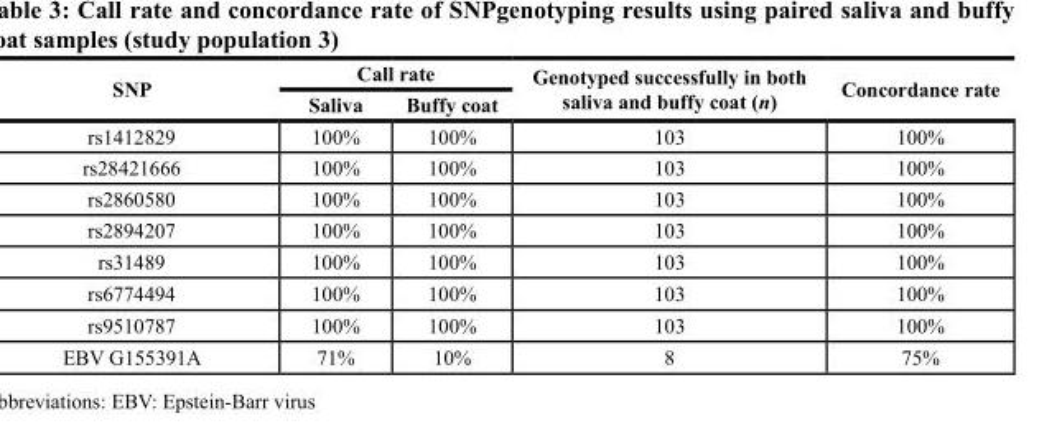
<table><thead><tr><td rowspan="2">SNP</td><td colspan="2">Call rate</td><td rowspan="2">Genotyped successfully in both saliva and buffy coat (n)</td><td rowspan="2">Concordance rate</td></tr><tr><td>Saliva</td><td>Buffy coat</td></tr></thead><tbody><tr><td>rs1412829</td><td>100%</td><td>100%</td><td>103</td><td>100%</td></tr><tr><td>rs28421666</td><td>100%</td><td>100%</td><td>103</td><td>100%</td></tr><tr><td>rs2860580</td><td>100%</td><td>100%</td><td>103</td><td>100%</td></tr><tr><td>rs2894207</td><td>100%</td><td>100%</td><td>103</td><td>100%</td></tr><tr><td>rs31489</td><td>100%</td><td>100%</td><td>103</td><td>100%</td></tr><tr><td>rs6774494</td><td>100%</td><td>100%</td><td>103</td><td>100%</td></tr><tr><td>rs9510787</td><td>100%</td><td>100%</td><td>103</td><td>100%</td></tr><tr><td>EBV G155391A</td><td>71%</td><td>10%</td><td>8</td><td>75%</td></tr></tbody></table>